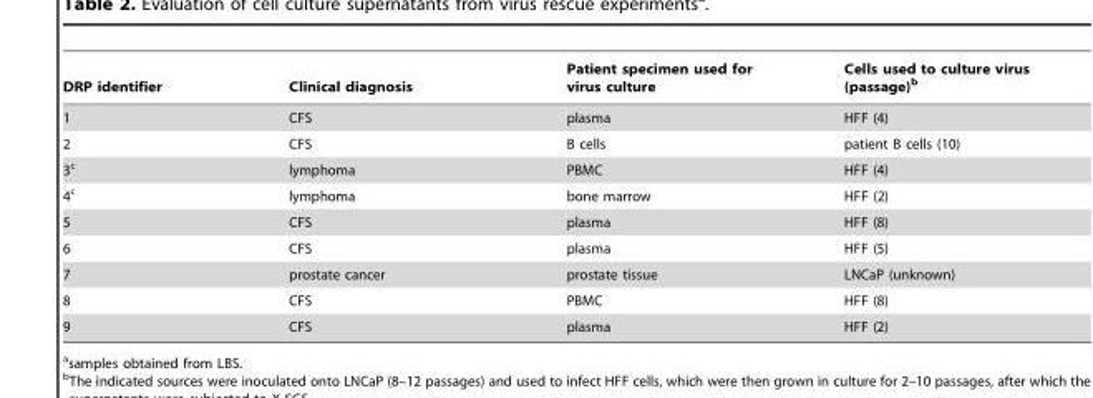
<table><thead><tr><td>DRP identifier</td><td>Clinical diagnosis</td><td>Patient specimen used for virus culture</td><td>Cells used to culture virus (passage)<sup>b</sup></td></tr></thead><tbody><tr><td>1</td><td>CFS</td><td>plasma</td><td>HFF (4)</td></tr><tr><td>2</td><td>CFS</td><td>B cells</td><td>patient B cells (10)</td></tr><tr><td>3<sup>c</sup></td><td>lymphoma</td><td>PBMC</td><td>HFF (4)</td></tr><tr><td>4<sup>c</sup></td><td>lymphoma</td><td>bone marrow</td><td>HFF (2)</td></tr><tr><td>5</td><td>CFS</td><td>plasma</td><td>HFF (8)</td></tr><tr><td>6</td><td>CFS</td><td>plasma</td><td>HFF (5)</td></tr><tr><td>7</td><td>prostate cancer</td><td>prostate tissue</td><td>LNCaP (unknown)</td></tr><tr><td>8</td><td>CFS</td><td>PBMC</td><td>HFF (8)</td></tr><tr><td>9</td><td>CFS</td><td>plasma</td><td>HFF (2)</td></tr></tbody></table>